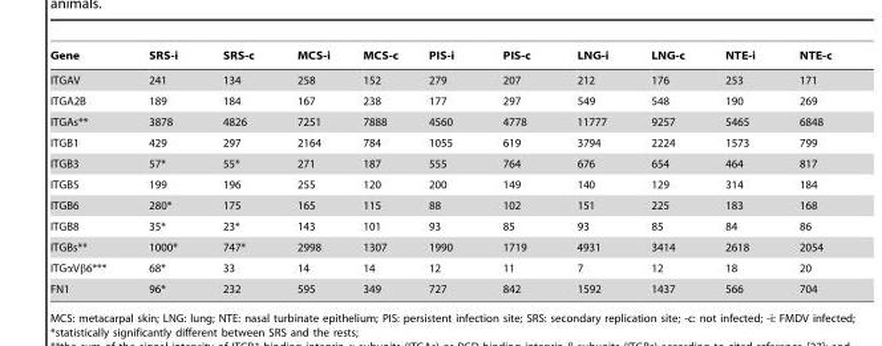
<table><thead><tr><td>Gene</td><td>SRS-i</td><td>SRS-c</td><td>MCS-i</td><td>MCS-c</td><td>PIS-i</td><td>PIS-c</td><td>LNG-i</td><td>LNG-c</td><td>NTE-i</td><td>NTE-c</td></tr></thead><tbody><tr><td>ITGAV</td><td>241</td><td>134</td><td>258</td><td>152</td><td>279</td><td>207</td><td>212</td><td>176</td><td>253</td><td>171</td></tr><tr><td>ITGA2B</td><td>189</td><td>184</td><td>167</td><td>238</td><td>177</td><td>297</td><td>549</td><td>548</td><td>190</td><td>269</td></tr><tr><td>ITGAs**</td><td>3878</td><td>4826</td><td>7251</td><td>7888</td><td>4560</td><td>4778</td><td>11777</td><td>9257</td><td>5465</td><td>6848</td></tr><tr><td>ITGB1</td><td>429</td><td>297</td><td>2164</td><td>784</td><td>1055</td><td>619</td><td>3794</td><td>2224</td><td>1573</td><td>799</td></tr><tr><td>ITGB3</td><td>57*</td><td>55*</td><td>271</td><td>187</td><td>555</td><td>764</td><td>676</td><td>654</td><td>464</td><td>817</td></tr><tr><td>ITGB5</td><td>199</td><td>196</td><td>255</td><td>120</td><td>200</td><td>149</td><td>140</td><td>129</td><td>314</td><td>184</td></tr><tr><td>ITGB6</td><td>280*</td><td>175</td><td>165</td><td>115</td><td>88</td><td>102</td><td>151</td><td>225</td><td>183</td><td>168</td></tr><tr><td>ITGB8</td><td>35*</td><td>23*</td><td>143</td><td>101</td><td>93</td><td>85</td><td>93</td><td>85</td><td>84</td><td>86</td></tr><tr><td>ITGBs**</td><td>1000*</td><td>747*</td><td>2998</td><td>1307</td><td>1990</td><td>1719</td><td>4931</td><td>3414</td><td>2618</td><td>2054</td></tr><tr><td>ITGαVβ6***</td><td>68*</td><td>33</td><td>14</td><td>14</td><td>12</td><td>11</td><td>7</td><td>12</td><td>18</td><td>20</td></tr><tr><td>FN1</td><td>96*</td><td>232</td><td>595</td><td>349</td><td>727</td><td>842</td><td>1592</td><td>1437</td><td>566</td><td>704</td></tr></tbody></table>